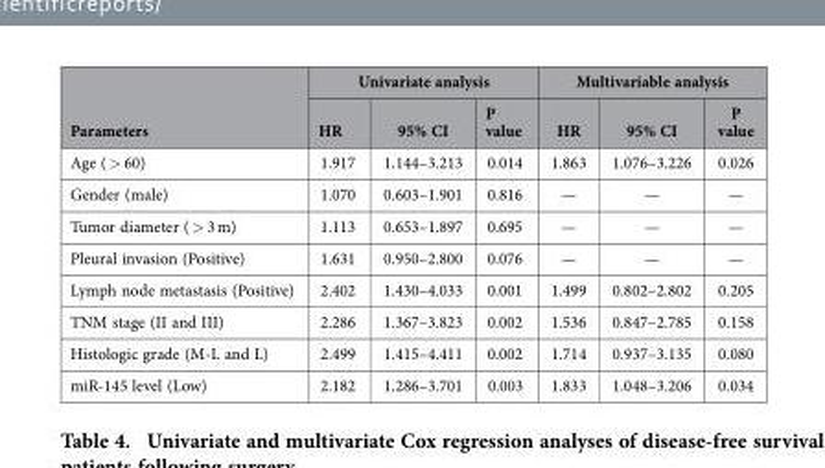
<table><thead><tr><td rowspan="2">Parameters</td><td colspan="3">Univariate analysis</td><td colspan="3">Multivariable analysis</td></tr><tr><td>HR</td><td>95% CI</td><td>P value</td><td>HR</td><td>95% CI</td><td>P value</td></tr></thead><tbody><tr><td>Age ( &gt; 60)</td><td>1.917</td><td>1.144–3.213</td><td>0.014</td><td>1.863</td><td>1.076–3.226</td><td>0.026</td></tr><tr><td>Gender (male)</td><td>1.070</td><td>0.603–1.901</td><td>0.816</td><td>—</td><td>—</td><td>—</td></tr><tr><td>Tumor diameter ( &gt; 3 m)</td><td>1.113</td><td>0.653–1.897</td><td>0.695</td><td>—</td><td>—</td><td>—</td></tr><tr><td>Pleural invasion (Positive)</td><td>1.631</td><td>0.950–2.800</td><td>0.076</td><td>—</td><td>—</td><td>—</td></tr><tr><td>Lymph node metastasis (Positive)</td><td>2.402</td><td>1.430–4.033</td><td>0.001</td><td>1.499</td><td>0.802–2.802</td><td>0.205</td></tr><tr><td>TNM stage (II and III)</td><td>2.286</td><td>1.367–3.823</td><td>0.002</td><td>1.536</td><td>0.847–2.785</td><td>0.158</td></tr><tr><td>Histologic grade (M-L and L)</td><td>2.499</td><td>1.415–4.411</td><td>0.002</td><td>1.714</td><td>0.937–3.135</td><td>0.080</td></tr><tr><td>miR-145 level (Low)</td><td>2.182</td><td>1.286–3.701</td><td>0.003</td><td>1.833</td><td>1.048–3.206</td><td>0.034</td></tr></tbody></table>